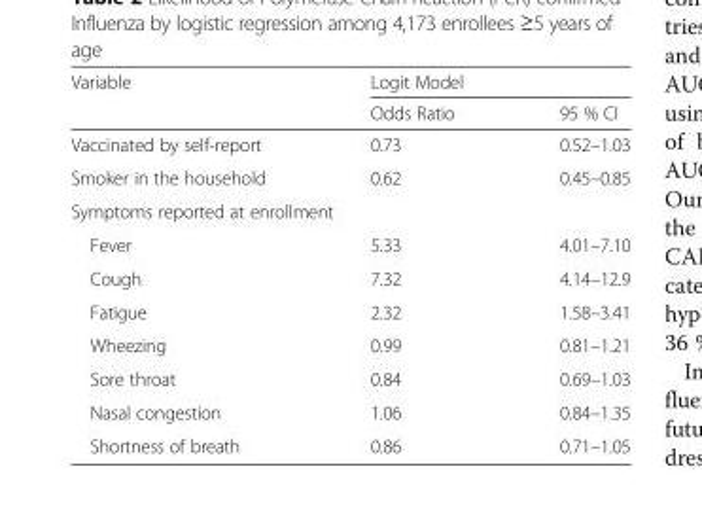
<table><thead><tr><td rowspan="2">Variable</td><td colspan="2">Logit Model</td></tr><tr><td>Odds Ratio</td><td>95 % CI</td></tr></thead><tbody><tr><td>Vaccinated by self-report</td><td>0.73</td><td>0.52–1.03</td></tr><tr><td>Smoker in the household</td><td>0.62</td><td>0.45–0.85</td></tr><tr><td colspan="3">Symptoms reported at enrollment</td></tr><tr><td>Fever</td><td>5.33</td><td>4.01–7.10</td></tr><tr><td>Cough</td><td>7.32</td><td>4.14–12.9</td></tr><tr><td>Fatigue</td><td>2.32</td><td>1.58–3.41</td></tr><tr><td>Wheezing</td><td>0.99</td><td>0.81–1.21</td></tr><tr><td>Sore throat</td><td>0.84</td><td>0.69–1.03</td></tr><tr><td>Nasal congestion</td><td>1.06</td><td>0.84–1.35</td></tr><tr><td>Shortness of breath</td><td>0.86</td><td>0.71–1.05</td></tr></tbody></table>